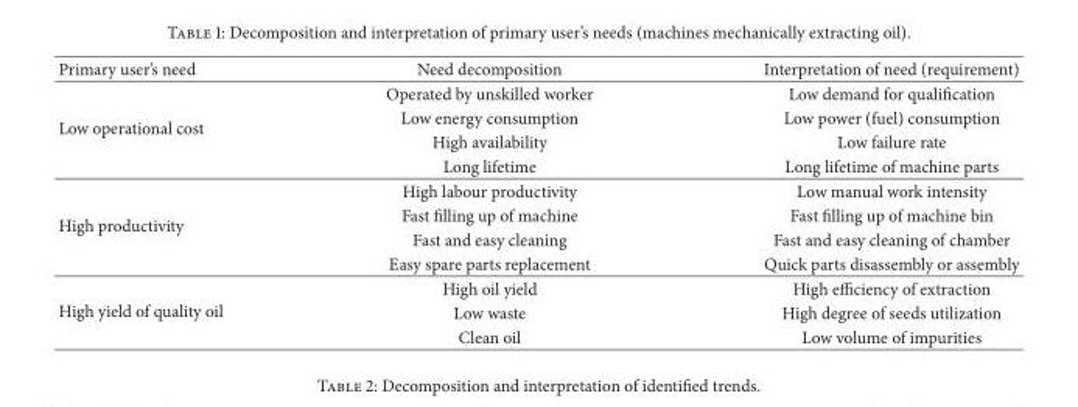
<table><thead><tr><td>Primary user’s need</td><td>Need decomposition</td><td>Interpretation of need (requirement)</td></tr></thead><tbody><tr><td rowspan="4">Low operational cost</td><td>Operated by unskilled worker</td><td>Low demand for qualification</td></tr><tr><td>Low energy consumption</td><td>Low power (fuel) consumption</td></tr><tr><td>High availability</td><td>Low failure rate</td></tr><tr><td>Long lifetime</td><td>Long lifetime of machine parts</td></tr><tr><td rowspan="4">High productivity</td><td>High labour productivity</td><td>Low manual work intensity</td></tr><tr><td>Fast filling up of machine</td><td>Fast filling up of machine bin</td></tr><tr><td>Fast and easy cleaning</td><td>Fast and easy cleaning of chamber</td></tr><tr><td>Easy spare parts replacement</td><td>Quick parts disassembly or assembly</td></tr><tr><td rowspan="3">High yield of quality oil</td><td>High oil yield</td><td>High efficiency of extraction</td></tr><tr><td>Low waste</td><td>High degree of seeds utilization</td></tr><tr><td>Clean oil</td><td>Low volume of impurities</td></tr></tbody></table>